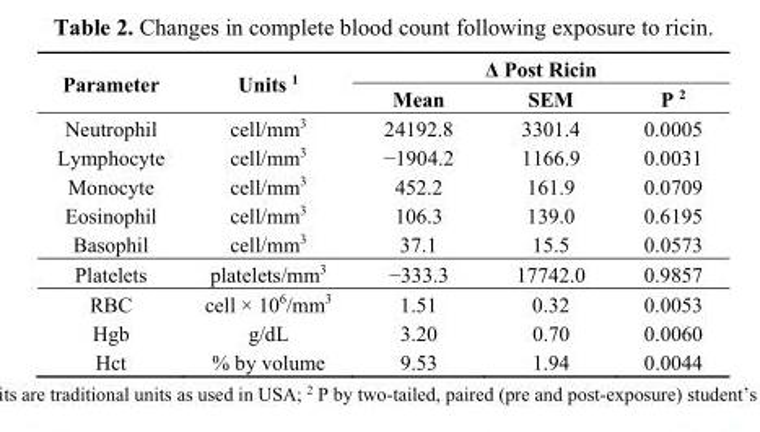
<table><thead><tr><td rowspan="2">Parameter</td><td rowspan="2">Units <sup>1</sup></td><td colspan="3">Δ Post Ricin</td></tr><tr><td>Mean</td><td>SEM</td><td>P <sup>2</sup></td></tr></thead><tbody><tr><td>Neutrophil</td><td>cell/mm<sup>3</sup></td><td>24192.8</td><td>3301.4</td><td>0.0005</td></tr><tr><td>Lymphocyte</td><td>cell/mm<sup>3</sup></td><td>−1904.2</td><td>1166.9</td><td>0.0031</td></tr><tr><td>Monocyte</td><td>cell/mm<sup>3</sup></td><td>452.2</td><td>161.9</td><td>0.0709</td></tr><tr><td>Eosinophil</td><td>cell/mm<sup>3</sup></td><td>106.3</td><td>139.0</td><td>0.6195</td></tr><tr><td>Basophil</td><td>cell/mm<sup>3</sup></td><td>37.1</td><td>15.5</td><td>0.0573</td></tr><tr><td>Platelets</td><td>platelets/mm<sup>3</sup></td><td>−333.3</td><td>17742.0</td><td>0.9857</td></tr><tr><td>RBC</td><td>cell × 10<sup>6</sup>/mm<sup>3</sup></td><td>1.51</td><td>0.32</td><td>0.0053</td></tr><tr><td>Hgb</td><td>g/dL</td><td>3.20</td><td>0.70</td><td>0.0060</td></tr><tr><td>Hct</td><td>% by volume</td><td>9.53</td><td>1.94</td><td>0.0044</td></tr></tbody></table>